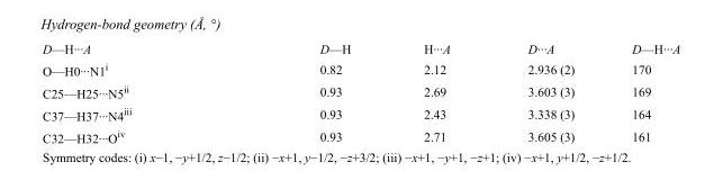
<table><tbody><tr><td>D—H···A</td><td>D—H</td><td>H···A</td><td>D···A</td><td>D—H···A</td></tr><tr><td>O—H0···N1<sup>i</sup></td><td>0.82</td><td>2.12</td><td>2.936 (2)</td><td>170</td></tr><tr><td>C25—H25···N5<sup>ii</sup></td><td>0.93</td><td>2.69</td><td>3.603 (3)</td><td>169</td></tr><tr><td>C37—H37···N4<sup>iii</sup></td><td>0.93</td><td>2.43</td><td>3.338 (3)</td><td>164</td></tr><tr><td>C32—H32···O<sup>iv</sup></td><td>0.93</td><td>2.71</td><td>3.605 (3)</td><td>161</td></tr></tbody></table>